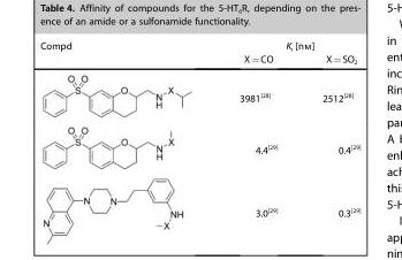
<table><thead><tr><td rowspan="2">Compd</td><td rowspan="2">K<sub>i</sub> [nm] X=CO</td><td rowspan="2">X=SO<sub>2</sub></td></tr><tr></tr></thead><tbody><tr><td></td><td>3981[28]</td><td>2512[28]</td></tr><tr><td></td><td>4.4[29]</td><td>0.4[29]</td></tr><tr><td></td><td>3.0[29]</td><td>0.3[29]</td></tr></tbody></table>